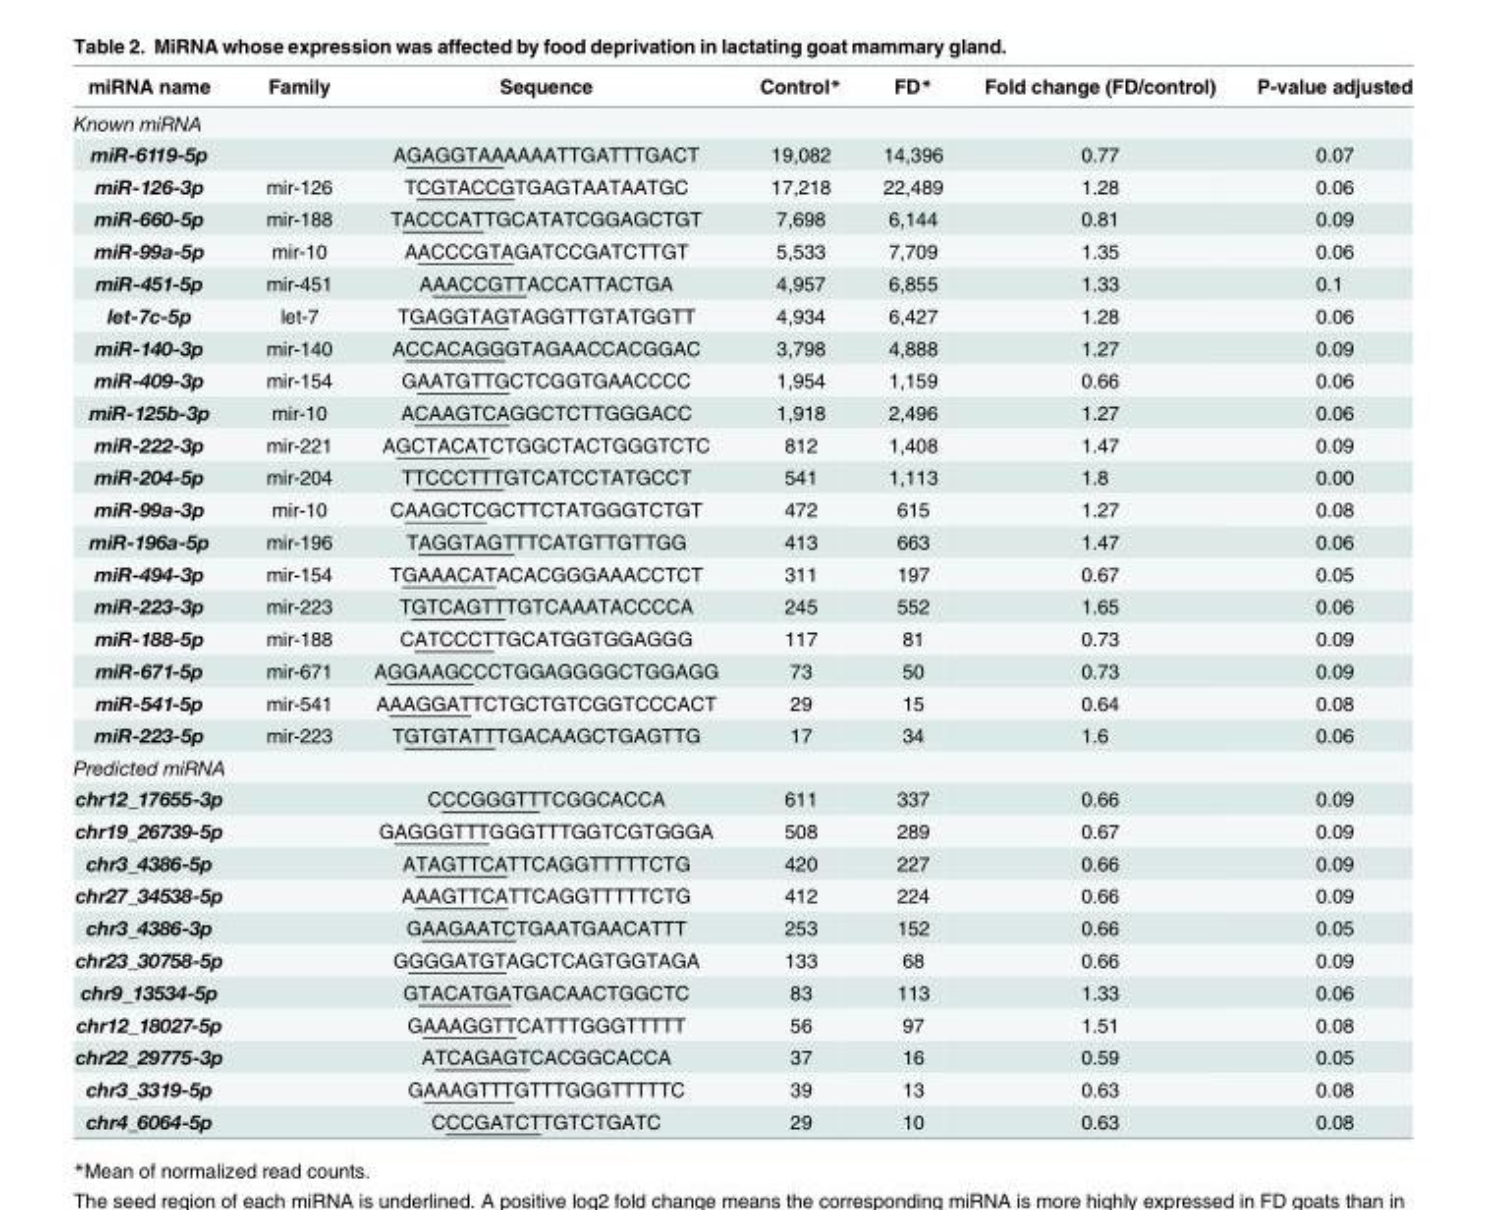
<table><thead><tr><td>miRNA name</td><td>Family</td><td>Sequence</td><td>Control*</td><td>FD*</td><td>Fold change (FD/control)</td><td>P-value adjusted</td></tr></thead><tbody><tr><td colspan="7">Known miRNA</td></tr><tr><td>miR-6119-5p</td><td></td><td>AGAGGTAAAAAATTGATTTGACT</td><td>19,082</td><td>14,396</td><td>0.77</td><td>0.07</td></tr><tr><td>miR-126-3p</td><td>mir-126</td><td>TCGTACCGTGAGTAATAATGC</td><td>17,218</td><td>22,489</td><td>1.28</td><td>0.06</td></tr><tr><td>miR-660-5p</td><td>mir-188</td><td>TACCCATTGCATATCGGAGCTGT</td><td>7,698</td><td>6,144</td><td>0.81</td><td>0.09</td></tr><tr><td>miR-99a-5p</td><td>mir-10</td><td>AACCCGTAGATCCGATCTTGT</td><td>5,533</td><td>7,709</td><td>1.35</td><td>0.06</td></tr><tr><td>miR-451-5p</td><td>mir-451</td><td>AAACCGTTACCATTACTGA</td><td>4,957</td><td>6,855</td><td>1.33</td><td>0.1</td></tr><tr><td>let-7c-5p</td><td>let-7</td><td>TGAGGTAGTAGGTTGTATGGTT</td><td>4,934</td><td>6,427</td><td>1.28</td><td>0.06</td></tr><tr><td>miR-140-3p</td><td>mir-140</td><td>ACCACAGGGTAGAACCACGGAC</td><td>3,798</td><td>4,888</td><td>1.27</td><td>0.09</td></tr><tr><td>miR-409-3p</td><td>mir-154</td><td>GAATGTTGCTCGGTGAACCCC</td><td>1,954</td><td>1,159</td><td>0.66</td><td>0.06</td></tr><tr><td>miR-125b-3p</td><td>mir-10</td><td>ACAAGTCAGGCTCTTGGGACC</td><td>1,918</td><td>2,496</td><td>1.27</td><td>0.06</td></tr><tr><td>miR-222-3p</td><td>mir-221</td><td>AGCTACATCTGGCTACTGGGTCTC</td><td>812</td><td>1,408</td><td>1.47</td><td>0.09</td></tr><tr><td>miR-204-5p</td><td>mir-204</td><td>TTCCCTTTGTCATCCTATGCCT</td><td>541</td><td>1,113</td><td>1.8</td><td>0.00</td></tr><tr><td>miR-99a-3p</td><td>mir-10</td><td>CAAGCTCGCTTCTATGGGTCTGT</td><td>472</td><td>615</td><td>1.27</td><td>0.08</td></tr><tr><td>miR-196a-5p</td><td>mir-196</td><td>TAGGTAGTTTCATGTTGTTGG</td><td>413</td><td>663</td><td>1.47</td><td>0.06</td></tr><tr><td>miR-494-3p</td><td>mir-154</td><td>TGAAACATACACGGGAAACCTCT</td><td>311</td><td>197</td><td>0.67</td><td>0.05</td></tr><tr><td>miR-223-3p</td><td>mir-223</td><td>TGTCAGTTTGTCAAATACCCCA</td><td>245</td><td>552</td><td>1.65</td><td>0.06</td></tr><tr><td>miR-188-5p</td><td>mir-188</td><td>CATCCCTTGCATGGTGGAGGG</td><td>117</td><td>81</td><td>0.73</td><td>0.09</td></tr><tr><td>miR-671-5p</td><td>mir-671</td><td>AGGAAGCCCTGGAGGGGCTGGAGG</td><td>73</td><td>50</td><td>0.73</td><td>0.09</td></tr><tr><td>miR-541-5p</td><td>mir-541</td><td>AAAGGATTCTGCTGTCGGTCCCACT</td><td>29</td><td>15</td><td>0.64</td><td>0.08</td></tr><tr><td>miR-223-5p</td><td>mir-223</td><td>TGTGTATTTGACAAGCTGAGTTG</td><td>17</td><td>34</td><td>1.6</td><td>0.06</td></tr><tr><td colspan="7">Predicted miRNA</td></tr><tr><td>chr12_17655-3p</td><td></td><td>CCCGGGTTTCGGCACCA</td><td>611</td><td>337</td><td>0.66</td><td>0.09</td></tr><tr><td>chr19_26739-5p</td><td></td><td>GAGGGTTTGGGTTTGGTCGTGGGA</td><td>508</td><td>289</td><td>0.67</td><td>0.09</td></tr><tr><td>chr3_4386-5p</td><td></td><td>ATAGTTCATTCAGGTTTTTCTG</td><td>420</td><td>227</td><td>0.66</td><td>0.09</td></tr><tr><td>chr27_34538-5p</td><td></td><td>AAAGTTCATTCAGGTTTTTCTG</td><td>412</td><td>224</td><td>0.66</td><td>0.09</td></tr><tr><td>chr3_4386-3p</td><td></td><td>GAAGAATCTGAATGAACATTT</td><td>253</td><td>152</td><td>0.66</td><td>0.05</td></tr><tr><td>chr23_30758-5p</td><td></td><td>GGGGATGTAGCTCAGTGGTAGA</td><td>133</td><td>68</td><td>0.66</td><td>0.09</td></tr><tr><td>chr9_13534-5p</td><td></td><td>GTACATGATGACAACTGGCTC</td><td>83</td><td>113</td><td>1.33</td><td>0.06</td></tr><tr><td>chr12_18027-5p</td><td></td><td>GAAAGGTTCATTTGGGTTTTT</td><td>56</td><td>97</td><td>1.51</td><td>0.08</td></tr><tr><td>chr22_29775-3p</td><td></td><td>ATCAGAGTCACGGCACCA</td><td>37</td><td>16</td><td>0.59</td><td>0.05</td></tr><tr><td>chr3_3319-5p</td><td></td><td>GAAAGTTTGTTTGGGTTTTTC</td><td>39</td><td>13</td><td>0.63</td><td>0.08</td></tr><tr><td>chr4_6064-5p</td><td></td><td>CCCGATCTTGTCTGATC</td><td>29</td><td>10</td><td>0.63</td><td>0.08</td></tr></tbody></table>